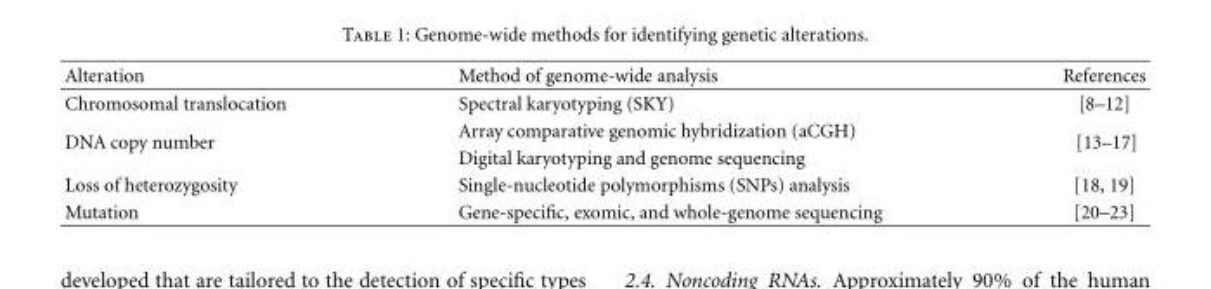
<table><thead><tr><td>Alteration</td><td>Method of genome-wide analysis</td><td>References</td></tr></thead><tbody><tr><td>Chromosomal translocation</td><td>Spectral karyotyping (SKY)</td><td>[8–12]</td></tr><tr><td rowspan="2">DNA copy number</td><td>Array comparative genomic hybridization (aCGH)</td><td rowspan="2">[13–17]</td></tr><tr><td>Digital karyotyping and genome sequencing</td></tr><tr><td>Loss of heterozygosity</td><td>Single-nucleotide polymorphisms (SNPs) analysis</td><td>[18, 19]</td></tr><tr><td>Mutation</td><td>Gene-specific, exomic, and whole-genome sequencing</td><td>[20–23]</td></tr></tbody></table>